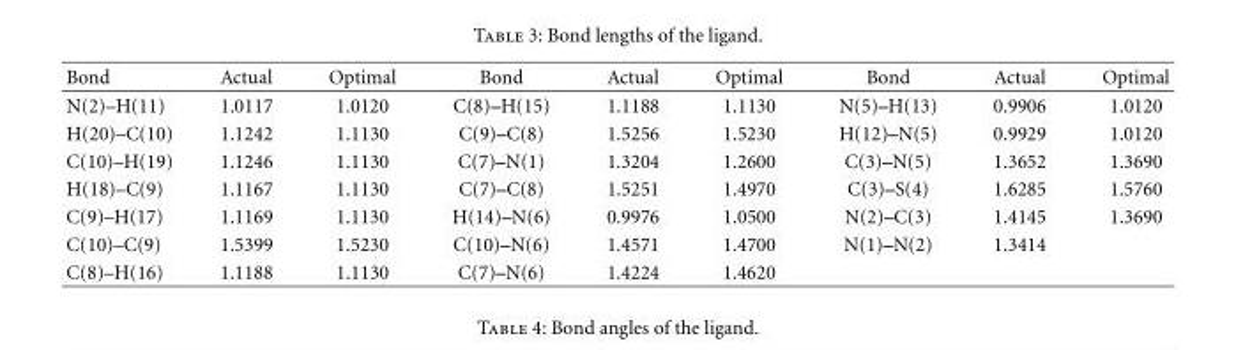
<table><thead><tr><td>Bond</td><td>Actual</td><td>Optimal</td><td>Bond</td><td>Actual</td><td>Optimal</td><td>Bond</td><td>Actual</td><td>Optimal</td></tr></thead><tbody><tr><td>N(2)–H(11)</td><td>1.0117</td><td>1.0120</td><td>C(8)–H(15)</td><td>1.1188</td><td>1.1130</td><td>N(5)–H(13)</td><td>0.9906</td><td>1.0120</td></tr><tr><td>H(20)–C(10)</td><td>1.1242</td><td>1.1130</td><td>C(9)–C(8)</td><td>1.5256</td><td>1.5230</td><td>H(12)–N(5)</td><td>0.9929</td><td>1.0120</td></tr><tr><td>C(10)–H(19)</td><td>1.1246</td><td>1.1130</td><td>C(7)–N(1)</td><td>1.3204</td><td>1.2600</td><td>C(3)–N(5)</td><td>1.3652</td><td>1.3690</td></tr><tr><td>H(18)–C(9)</td><td>1.1167</td><td>1.1130</td><td>C(7)–C(8)</td><td>1.5251</td><td>1.4970</td><td>C(3)–S(4)</td><td>1.6285</td><td>1.5760</td></tr><tr><td>C(9)–H(17)</td><td>1.1169</td><td>1.1130</td><td>H(14)–N(6)</td><td>0.9976</td><td>1.0500</td><td>N(2)–C(3)</td><td>1.4145</td><td>1.3690</td></tr><tr><td>C(10)–C(9)</td><td>1.5399</td><td>1.5230</td><td>C(10)–N(6)</td><td>1.4571</td><td>1.4700</td><td>N(1)–N(2)</td><td>1.3414</td><td></td></tr><tr><td>C(8)–H(16)</td><td>1.1188</td><td>1.1130</td><td>C(7)–N(6)</td><td>1.4224</td><td>1.4620</td><td></td><td></td><td></td></tr></tbody></table>